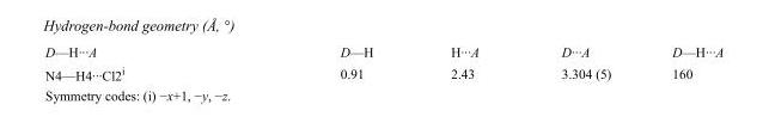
<table><tbody><tr><td>D—H···A</td><td>D—H</td><td>H···A</td><td>D···A</td><td>D—H···A</td></tr><tr><td>N4—H4···Cl2<sup>i</sup></td><td>0.91</td><td>2.43</td><td>3.304 (5)</td><td>160</td></tr></tbody></table>